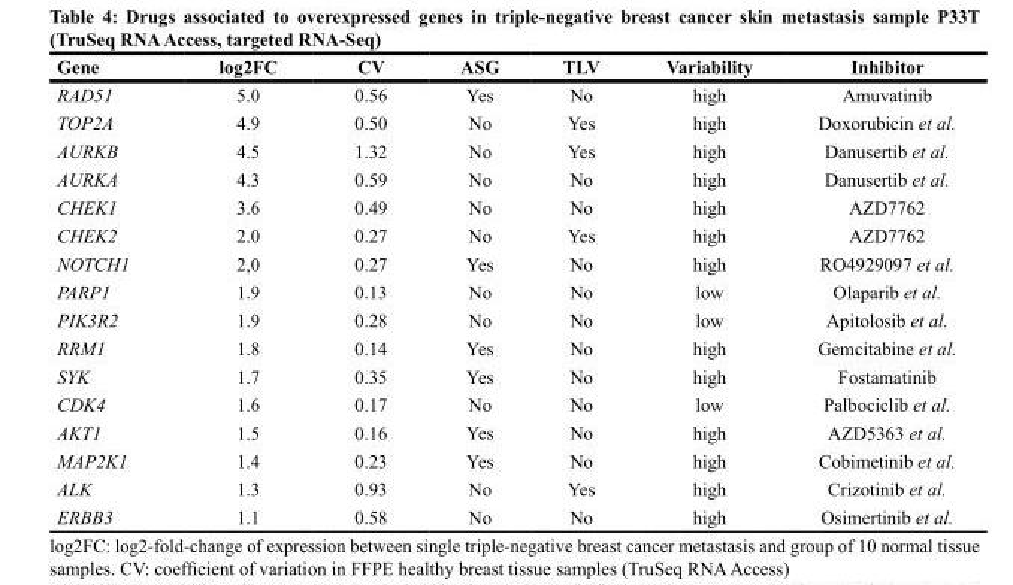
<table><thead><tr><td>Gene</td><td>log2FC</td><td>CV</td><td>ASG</td><td>TLV</td><td>Variability</td><td>Inhibitor</td></tr></thead><tbody><tr><td>RAD51</td><td>5.0</td><td>0.56</td><td>Yes</td><td>No</td><td>high</td><td>Amuvatinib</td></tr><tr><td>TOP2A</td><td>4.9</td><td>0.50</td><td>No</td><td>Yes</td><td>high</td><td>Doxorubicin et al.</td></tr><tr><td>AURKB</td><td>4.5</td><td>1.32</td><td>No</td><td>Yes</td><td>high</td><td>Danusertib et al.</td></tr><tr><td>AURKA</td><td>4.3</td><td>0.59</td><td>No</td><td>No</td><td>high</td><td>Danusertib et al.</td></tr><tr><td>CHEK1</td><td>3.6</td><td>0.49</td><td>No</td><td>No</td><td>high</td><td>AZD7762</td></tr><tr><td>CHEK2</td><td>2.0</td><td>0.27</td><td>No</td><td>Yes</td><td>high</td><td>AZD7762</td></tr><tr><td>NOTCH1</td><td>2,0</td><td>0.27</td><td>Yes</td><td>No</td><td>high</td><td>RO4929097 et al.</td></tr><tr><td>PARP1</td><td>1.9</td><td>0.13</td><td>No</td><td>No</td><td>low</td><td>Olaparib et al.</td></tr><tr><td>PIK3R2</td><td>1.9</td><td>0.28</td><td>No</td><td>No</td><td>low</td><td>Apitolosib et al.</td></tr><tr><td>RRM1</td><td>1.8</td><td>0.14</td><td>Yes</td><td>No</td><td>high</td><td>Gemcitabine et al.</td></tr><tr><td>SYK</td><td>1.7</td><td>0.35</td><td>Yes</td><td>No</td><td>high</td><td>Fostamatinib</td></tr><tr><td>CDK4</td><td>1.6</td><td>0.17</td><td>No</td><td>No</td><td>low</td><td>Palbociclib et al.</td></tr><tr><td>AKT1</td><td>1.5</td><td>0.16</td><td>Yes</td><td>No</td><td>high</td><td>AZD5363 et al.</td></tr><tr><td>MAP2K1</td><td>1.4</td><td>0.23</td><td>Yes</td><td>No</td><td>high</td><td>Cobimetinib et al.</td></tr><tr><td>ALK</td><td>1.3</td><td>0.93</td><td>No</td><td>Yes</td><td>high</td><td>Crizotinib et al.</td></tr><tr><td>ERBB3</td><td>1.1</td><td>0.58</td><td>No</td><td>No</td><td>high</td><td>Osimertinib et al.</td></tr></tbody></table>